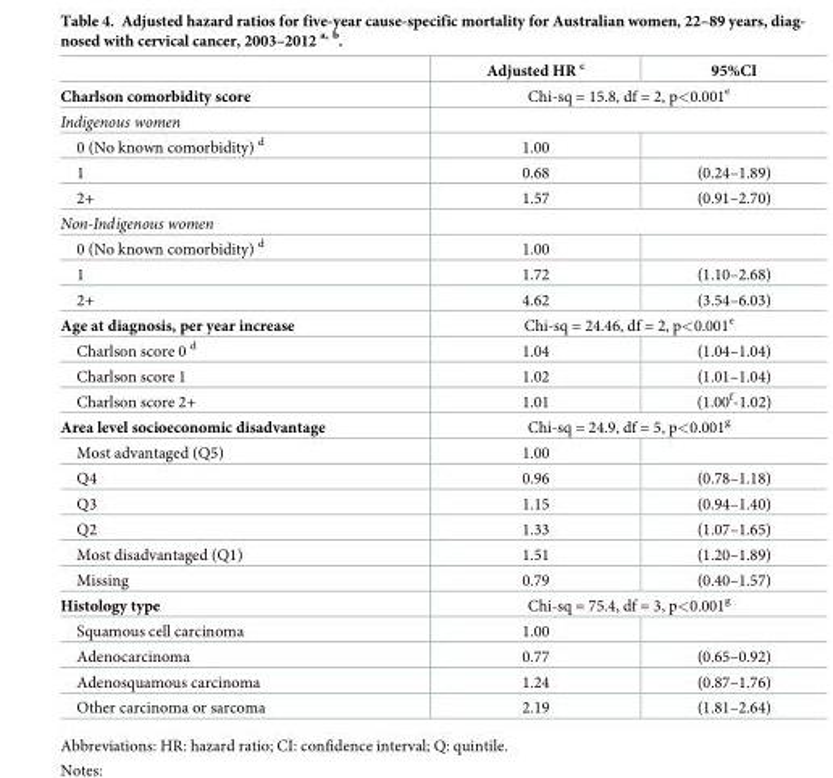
<table><thead><tr><td></td><td>Adjusted HR <sup>c</sup></td><td>95%CI</td></tr></thead><tbody><tr><td>Charlson comorbidity score</td><td colspan="2">Chi-sq = 15.8, df = 2, p&lt;0.001<sup>e</sup></td></tr><tr><td colspan="3">Indigenous women</td></tr><tr><td>0 (No known comorbidity) <sup>d</sup></td><td>1.00</td><td></td></tr><tr><td>1</td><td>0.68</td><td>(0.24–1.89)</td></tr><tr><td>2+</td><td>1.57</td><td>(0.91–2.70)</td></tr><tr><td colspan="3">Non-Indigenous women</td></tr><tr><td>0 (No known comorbidity) <sup>d</sup></td><td>1.00</td><td></td></tr><tr><td>1</td><td>1.72</td><td>(1.10–2.68)</td></tr><tr><td>2+</td><td>4.62</td><td>(3.54–6.03)</td></tr><tr><td>Age at diagnosis, per year increase</td><td colspan="2">Chi-sq = 24.46, df = 2, p&lt;0.001<sup>e</sup></td></tr><tr><td>Charlson score 0 <sup>d</sup></td><td>1.04</td><td>(1.04–1.04)</td></tr><tr><td>Charlson score 1</td><td>1.02</td><td>(1.01–1.04)</td></tr><tr><td>Charlson score 2+</td><td>1.01</td><td>(1.00<sup>f</sup>-1.02)</td></tr><tr><td>Area level socioeconomic disadvantage</td><td colspan="2">Chi-sq = 24.9, df = 5, p&lt;0.001<sup>g</sup></td></tr><tr><td>Most advantaged (Q5)</td><td>1.00</td><td></td></tr><tr><td>Q4</td><td>0.96</td><td>(0.78–1.18)</td></tr><tr><td>Q3</td><td>1.15</td><td>(0.94–1.40)</td></tr><tr><td>Q2</td><td>1.33</td><td>(1.07–1.65)</td></tr><tr><td>Most disadvantaged (Q1)</td><td>1.51</td><td>(1.20–1.89)</td></tr><tr><td>Missing</td><td>0.79</td><td>(0.40–1.57)</td></tr><tr><td>Histology type</td><td colspan="2">Chi-sq = 75.4, df = 3, p&lt;0.001<sup>g</sup></td></tr><tr><td>Squamous cell carcinoma</td><td>1.00</td><td></td></tr><tr><td>Adenocarcinoma</td><td>0.77</td><td>(0.65–0.92)</td></tr><tr><td>Adenosquamous carcinoma</td><td>1.24</td><td>(0.87–1.76)</td></tr><tr><td>Other carcinoma or sarcoma</td><td>2.19</td><td>(1.81–2.64)</td></tr></tbody></table>